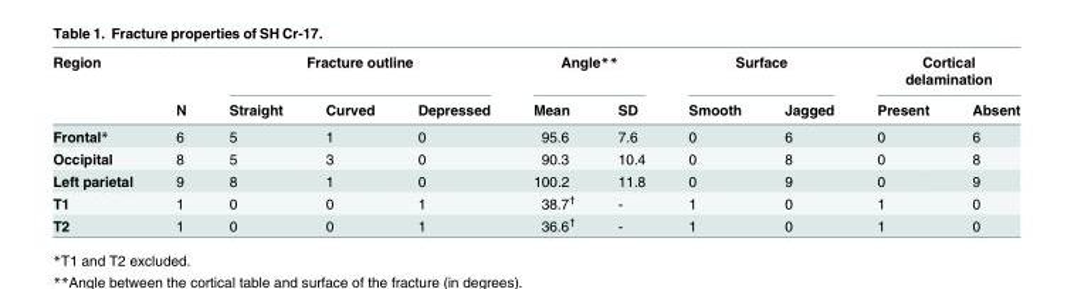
<table><thead><tr><td rowspan="2">Region</td><td rowspan="2">N</td><td colspan="3">Fracture outline</td><td colspan="2">Angle**</td><td colspan="2">Surface</td><td colspan="2">Cortical delamination</td></tr><tr><td>Straight</td><td>Curved</td><td>Depressed</td><td>Mean</td><td>SD</td><td>Smooth</td><td>Jagged</td><td>Present</td><td>Absent</td></tr></thead><tbody><tr><td>Frontal*</td><td>6</td><td>5</td><td>1</td><td>0</td><td>95.6</td><td>7.6</td><td>0</td><td>6</td><td>0</td><td>6</td></tr><tr><td>Occipital</td><td>8</td><td>5</td><td>3</td><td>0</td><td>90.3</td><td>10.4</td><td>0</td><td>8</td><td>0</td><td>8</td></tr><tr><td>Left parietal</td><td>9</td><td>8</td><td>1</td><td>0</td><td>100.2</td><td>11.8</td><td>0</td><td>9</td><td>0</td><td>9</td></tr><tr><td>T1</td><td>1</td><td>0</td><td>0</td><td>1</td><td>38.7<sup>†</sup></td><td>-</td><td>1</td><td>0</td><td>1</td><td>0</td></tr><tr><td>T2</td><td>1</td><td>0</td><td>0</td><td>1</td><td>36.6<sup>†</sup></td><td>-</td><td>1</td><td>0</td><td>1</td><td>0</td></tr></tbody></table>